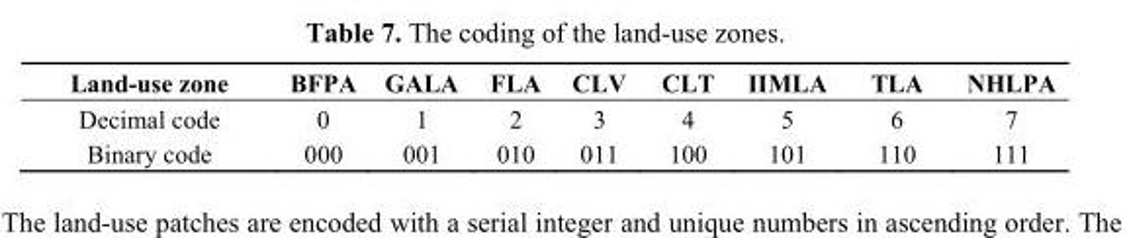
<table><thead><tr><td>Land-use zone</td><td>BFPA</td><td>GALA</td><td>FLA</td><td>CLV</td><td>CLT</td><td>IIMLA</td><td>TLA</td><td>NHLPA</td></tr></thead><tbody><tr><td>Decimal code</td><td>0</td><td>1</td><td>2</td><td>3</td><td>4</td><td>5</td><td>6</td><td>7</td></tr><tr><td>Binary code</td><td>000</td><td>001</td><td>010</td><td>011</td><td>100</td><td>101</td><td>110</td><td>111</td></tr></tbody></table>